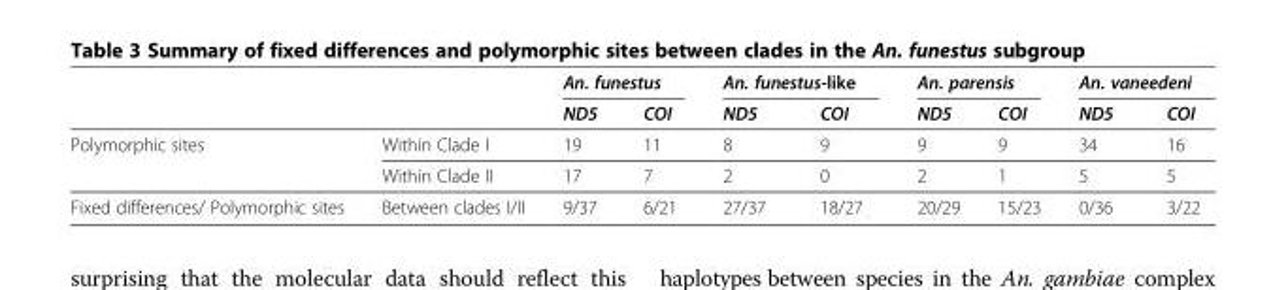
<table><thead><tr><td rowspan="2"></td><td rowspan="2"></td><td colspan="2">An. funestus</td><td colspan="2">An. funestus-like</td><td colspan="2">An. parensis</td><td colspan="2">An. vaneedeni</td></tr><tr><td>ND5</td><td>COI</td><td>ND5</td><td>COI</td><td>ND5</td><td>COI</td><td>ND5</td><td>COI</td></tr></thead><tbody><tr><td rowspan="2">Polymorphic sites</td><td>Within Clade I</td><td>19</td><td>11</td><td>8</td><td>9</td><td>9</td><td>9</td><td>34</td><td>16</td></tr><tr><td>Within Clade II</td><td>17</td><td>7</td><td>2</td><td>0</td><td>2</td><td>1</td><td>5</td><td>5</td></tr><tr><td>Fixed differences/ Polymorphic sites</td><td>Between clades I/II</td><td>9/37</td><td>6/21</td><td>27/37</td><td>18/27</td><td>20/29</td><td>15/23</td><td>0/36</td><td>3/22</td></tr></tbody></table>